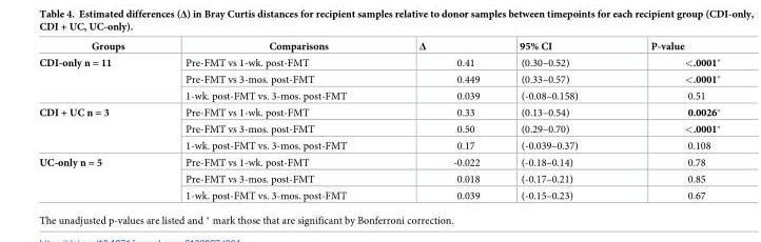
<table><thead><tr><td>Groups</td><td>Comparisons</td><td>Δ</td><td>95% CI</td><td>P-value</td></tr></thead><tbody><tr><td rowspan="3">CDI-only n = 11</td><td>Pre-FMT vs 1-wk. post-FMT</td><td>0.41</td><td>(0.30–0.52)</td><td>&lt;.0001*</td></tr><tr><td>Pre-FMT vs 3-mos. post-FMT</td><td>0.449</td><td>(0.33–0.57)</td><td>&lt;.0001*</td></tr><tr><td>1-wk. post-FMT vs. 3-mos. post-FMT</td><td>0.039</td><td>(-0.08–0.158)</td><td>0.51</td></tr><tr><td rowspan="3">CDI + UC n = 3</td><td>Pre-FMT vs 1-wk. post-FMT</td><td>0.33</td><td>(0.13–0.54)</td><td>0.0026*</td></tr><tr><td>Pre-FMT vs 3-mos. post-FMT</td><td>0.50</td><td>(0.29–0.70)</td><td>&lt;.0001*</td></tr><tr><td>1-wk. post-FMT vs. 3-mos. post-FMT</td><td>0.17</td><td>(-0.039–0.37)</td><td>0.108</td></tr><tr><td rowspan="3">UC-only n = 5</td><td>Pre-FMT vs 1-wk. post-FMT</td><td>-0.022</td><td>(-0.18–0.14)</td><td>0.78</td></tr><tr><td>Pre-FMT vs 3-mos. post-FMT</td><td>0.018</td><td>(-0.17–0.21)</td><td>0.85</td></tr><tr><td>1-wk. post-FMT vs. 3-mos. post-FMT</td><td>0.039</td><td>(-0.15–0.23)</td><td>0.67</td></tr></tbody></table>